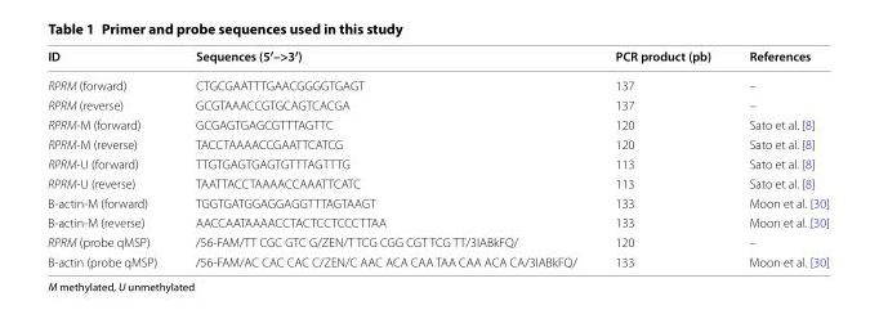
<table><thead><tr><td>ID</td><td>Sequences (5′–&gt;3′)</td><td>PCR product (pb)</td><td>References</td></tr></thead><tbody><tr><td>RPRM (forward)</td><td>CTGCGAATTTGAACGGGGTGAGT</td><td>137</td><td>–</td></tr><tr><td>RPRM (reverse)</td><td>GCGTAAACCGTGCAGTCACGA</td><td>137</td><td>–</td></tr><tr><td>RPRM‑M (forward)</td><td>GCGAGTGAGCGTTTAGTTC</td><td>120</td><td>Sato et al. [8]</td></tr><tr><td>RPRM‑M (reverse)</td><td>TACCTAAAACCGAATTCATCG</td><td>120</td><td>Sato et al. [8]</td></tr><tr><td>RPRM‑U (forward)</td><td>TTGTGAGTGAGTGTTTAGTTTG</td><td>113</td><td>Sato et al. [8]</td></tr><tr><td>RPRM‑U (reverse)</td><td>TAATTACCTAAAACCAAATTCATC</td><td>113</td><td>Sato et al. [8]</td></tr><tr><td>B‑actin‑M (forward)</td><td>TGGTGATGGAGGAGGTTTAGTAAGT</td><td>133</td><td>Moon et al. [30]</td></tr><tr><td>B‑actin‑M (reverse)</td><td>AACCAATAAAACCTACTCCTCCCTTAA</td><td>133</td><td>Moon et al. [30]</td></tr><tr><td>RPRM (probe qMSP)</td><td>/56‑FAM/TT CGC GTC G/ZEN/T TCG CGG CGT TCG TT/3IABkFQ/</td><td>120</td><td>–</td></tr><tr><td>B‑actin (probe qMSP)</td><td>/56‑FAM/AC CAC CAC C/ZEN/C AAC ACA CAA TAA CAA ACA CA/3IABkFQ/</td><td>133</td><td>Moon et al. [30]</td></tr></tbody></table>